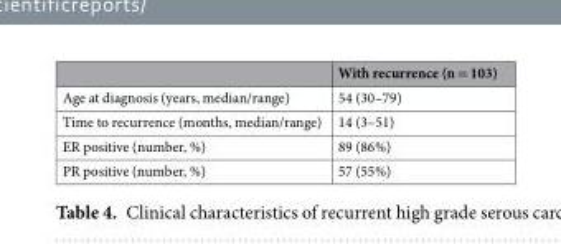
<table><thead><tr><td></td><td>With recurrence (n = 103)</td></tr></thead><tbody><tr><td>Age at diagnosis (years, median/range)</td><td>54 (30–79)</td></tr><tr><td>Time to recurrence (months, median/range)</td><td>14 (3–51)</td></tr><tr><td>ER positive (number, %)</td><td>89 (86%)</td></tr><tr><td>PR positive (number, %)</td><td>57 (55%)</td></tr></tbody></table>